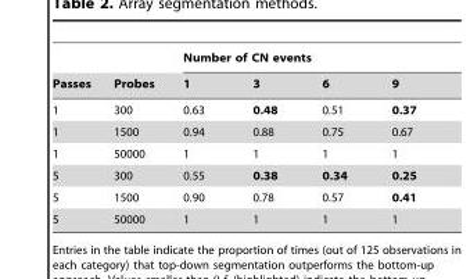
<table><thead><tr><td rowspan="2">Passes</td><td rowspan="2">Probes</td><td colspan="4">Number of CN events</td></tr><tr><td>1</td><td>3</td><td>6</td><td>9</td></tr></thead><tbody><tr><td>1</td><td>300</td><td>0.63</td><td>0.48</td><td>0.51</td><td>0.37</td></tr><tr><td>1</td><td>1500</td><td>0.94</td><td>0.88</td><td>0.75</td><td>0.67</td></tr><tr><td>1</td><td>50000</td><td>1</td><td>1</td><td>1</td><td>1</td></tr><tr><td>5</td><td>300</td><td>0.55</td><td>0.38</td><td>0.34</td><td>0.25</td></tr><tr><td>5</td><td>1500</td><td>0.90</td><td>0.78</td><td>0.57</td><td>0.41</td></tr><tr><td>5</td><td>50000</td><td>1</td><td>1</td><td>1</td><td>1</td></tr></tbody></table>